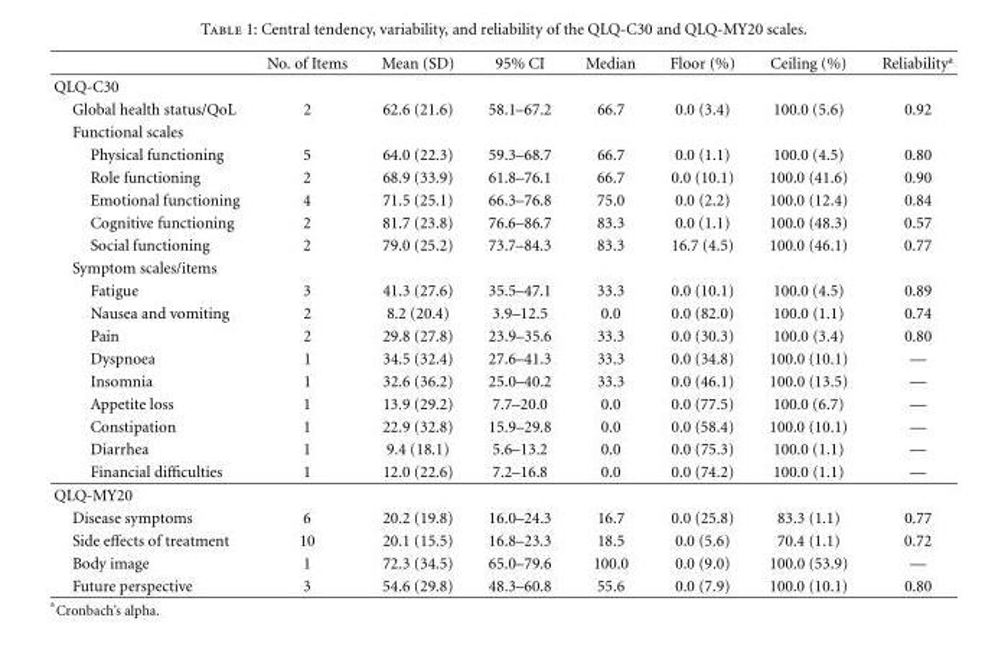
<table><thead><tr><td></td><td>No. of Items</td><td>Mean (SD)</td><td>95% CI</td><td>Median</td><td>Floor (%)</td><td>Ceiling (%)</td><td>Reliability<sup>a</sup></td></tr></thead><tbody><tr><td colspan="8">QLQ-C30</td></tr><tr><td>Global health status/QoL</td><td>2</td><td>62.6 (21.6)</td><td>58.1–67.2</td><td>66.7</td><td>0.0 (3.4)</td><td>100.0 (5.6)</td><td>0.92</td></tr><tr><td colspan="8">Functional scales</td></tr><tr><td>Physical functioning</td><td>5</td><td>64.0 (22.3)</td><td>59.3–68.7</td><td>66.7</td><td>0.0 (1.1)</td><td>100.0 (4.5)</td><td>0.80</td></tr><tr><td>Role functioning</td><td>2</td><td>68.9 (33.9)</td><td>61.8–76.1</td><td>66.7</td><td>0.0 (10.1)</td><td>100.0 (41.6)</td><td>0.90</td></tr><tr><td>Emotional functioning</td><td>4</td><td>71.5 (25.1)</td><td>66.3–76.8</td><td>75.0</td><td>0.0 (2.2)</td><td>100.0 (12.4)</td><td>0.84</td></tr><tr><td>Cognitive functioning</td><td>2</td><td>81.7 (23.8)</td><td>76.6–86.7</td><td>83.3</td><td>0.0 (1.1)</td><td>100.0 (48.3)</td><td>0.57</td></tr><tr><td>Social functioning</td><td>2</td><td>79.0 (25.2)</td><td>73.7–84.3</td><td>83.3</td><td>16.7 (4.5)</td><td>100.0 (46.1)</td><td>0.77</td></tr><tr><td colspan="8">Symptom scales/items</td></tr><tr><td>Fatigue</td><td>3</td><td>41.3 (27.6)</td><td>35.5–47.1</td><td>33.3</td><td>0.0 (10.1)</td><td>100.0 (4.5)</td><td>0.89</td></tr><tr><td>Nausea and vomiting</td><td>2</td><td>8.2 (20.4)</td><td>3.9–12.5</td><td>0.0</td><td>0.0 (82.0)</td><td>100.0 (1.1)</td><td>0.74</td></tr><tr><td>Pain</td><td>2</td><td>29.8 (27.8)</td><td>23.9–35.6</td><td>33.3</td><td>0.0 (30.3)</td><td>100.0 (3.4)</td><td>0.80</td></tr><tr><td>Dyspnoea</td><td>1</td><td>34.5 (32.4)</td><td>27.6–41.3</td><td>33.3</td><td>0.0 (34.8)</td><td>100.0 (10.1)</td><td>—</td></tr><tr><td>Insomnia</td><td>1</td><td>32.6 (36.2)</td><td>25.0–40.2</td><td>33.3</td><td>0.0 (46.1)</td><td>100.0 (13.5)</td><td>—</td></tr><tr><td>Appetite loss</td><td>1</td><td>13.9 (29.2)</td><td>7.7–20.0</td><td>0.0</td><td>0.0 (77.5)</td><td>100.0 (6.7)</td><td>—</td></tr><tr><td>Constipation</td><td>1</td><td>22.9 (32.8)</td><td>15.9–29.8</td><td>0.0</td><td>0.0 (58.4)</td><td>100.0 (10.1)</td><td>—</td></tr><tr><td>Diarrhea</td><td>1</td><td>9.4 (18.1)</td><td>5.6–13.2</td><td>0.0</td><td>0.0 (75.3)</td><td>100.0 (1.1)</td><td>—</td></tr><tr><td>Financial difficulties</td><td>1</td><td>12.0 (22.6)</td><td>7.2–16.8</td><td>0.0</td><td>0.0 (74.2)</td><td>100.0 (1.1)</td><td>—</td></tr><tr><td colspan="8">QLQ-MY20</td></tr><tr><td>Disease symptoms</td><td>6</td><td>20.2 (19.8)</td><td>16.0–24.3</td><td>16.7</td><td>0.0 (25.8)</td><td>83.3 (1.1)</td><td>0.77</td></tr><tr><td>Side effects of treatment</td><td>10</td><td>20.1 (15.5)</td><td>16.8–23.3</td><td>18.5</td><td>0.0 (5.6)</td><td>70.4 (1.1)</td><td>0.72</td></tr><tr><td>Body image</td><td>1</td><td>72.3 (34.5)</td><td>65.0–79.6</td><td>100.0</td><td>0.0 (9.0)</td><td>100.0 (53.9)</td><td>—</td></tr><tr><td>Future perspective</td><td>3</td><td>54.6 (29.8)</td><td>48.3–60.8</td><td>55.6</td><td>0.0 (7.9)</td><td>100.0 (10.1)</td><td>0.80</td></tr></tbody></table>